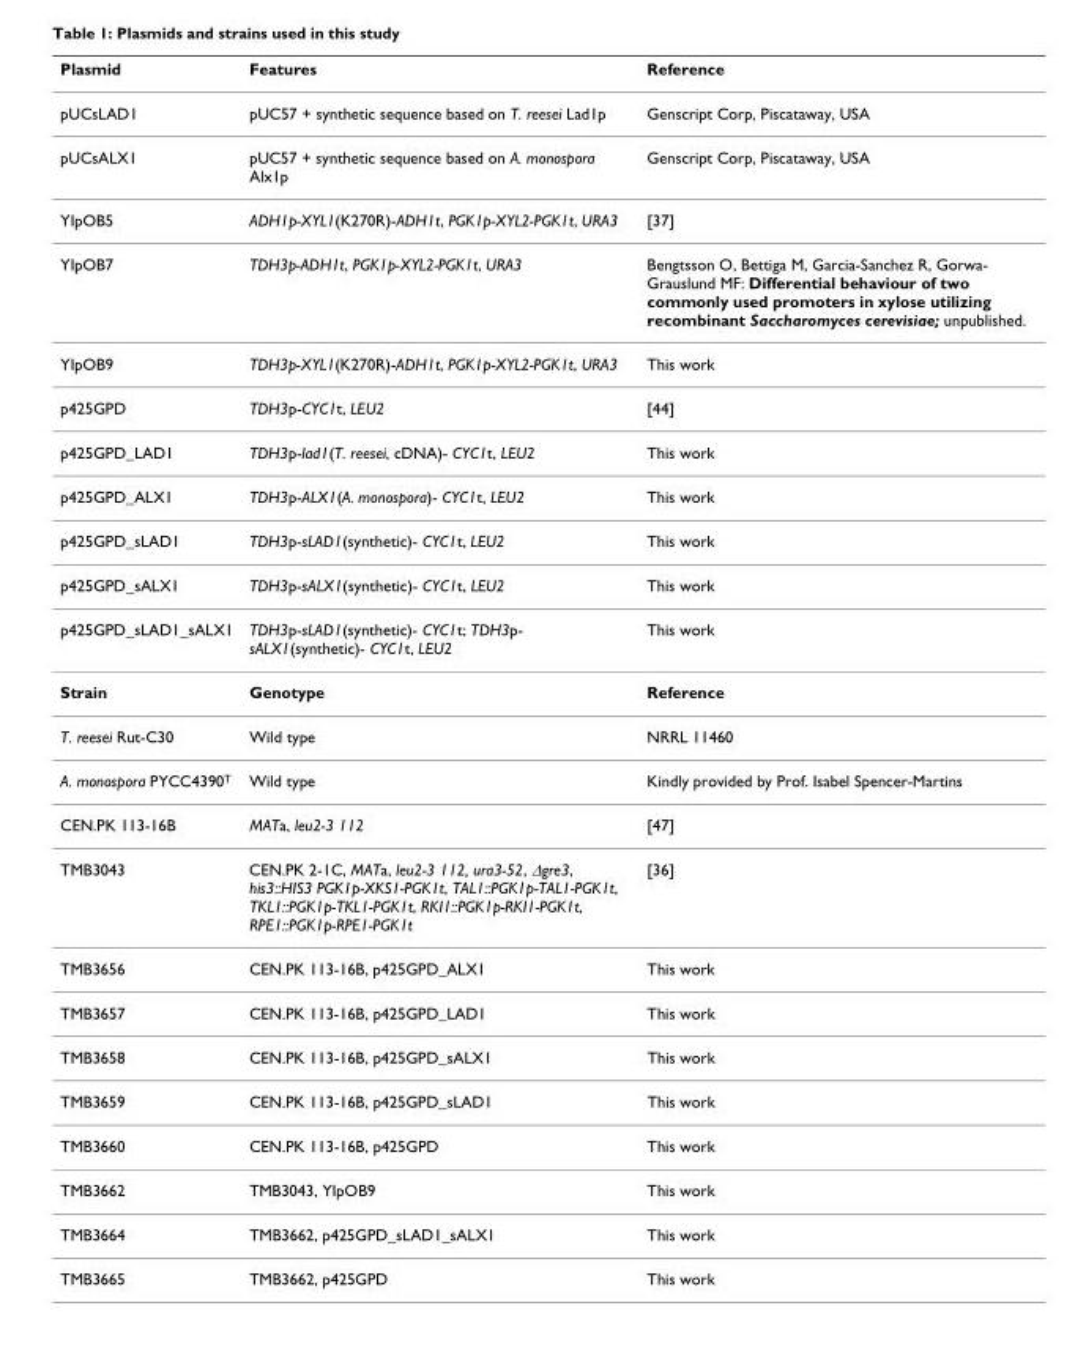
<table><thead><tr><td>Plasmid</td><td>Features</td><td>Reference</td></tr></thead><tbody><tr><td>pUCsLAD1</td><td>pUC57 + synthetic sequence based on T. reesei Lad1p</td><td>Genscript Corp, Piscataway, USA</td></tr><tr><td>pUCsALX1</td><td>pUC57 + synthetic sequence based on A. monospora Alx1p</td><td>Genscript Corp, Piscataway, USA</td></tr><tr><td>YIpOB5</td><td>ADH1p-XYL1(K270R)-ADH1t, PGK1p-XYL2-PGK1t, URA3</td><td>[37]</td></tr><tr><td>YIpOB7</td><td>TDH3p-ADH1t, PGK1p-XYL2-PGK1t, URA3</td><td>Bengtsson O, Bettiga M, Garcia-Sanchez R, Gorwa- Grauslund MF: Differential behaviour of two commonly used promoters in xylose utilizing recombinant Saccharomyces cerevisiae; unpublished.</td></tr><tr><td>YIpOB9</td><td>TDH3p-XYL1(K270R)-ADH1t, PGK1p-XYL2-PGK1t, URA3</td><td>This work</td></tr><tr><td>p425GPD</td><td>TDH3p-CYC1t, LEU2</td><td>[44]</td></tr><tr><td>p425GPD_LAD1</td><td>TDH3p-lad1(T. reesei, cDNA)- CYC1t, LEU2</td><td>This work</td></tr><tr><td>p425GPD_ALX1</td><td>TDH3p-ALX1(A. monospora)- CYC1t, LEU2</td><td>This work</td></tr><tr><td>p425GPD_sLAD1</td><td>TDH3p-sLAD1(synthetic)- CYC1t, LEU2</td><td>This work</td></tr><tr><td>p425GPD_sALX1</td><td>TDH3p-sALX1(synthetic)- CYC1t, LEU2</td><td>This work</td></tr><tr><td>p425GPD_sLAD1_sALX1</td><td>TDH3p-sLAD1(synthetic)- CYC1t; TDH3p- sALX1(synthetic)- CYC1t, LEU2</td><td>This work</td></tr><tr><td>Strain</td><td>Genotype</td><td>Reference</td></tr><tr><td>T. reesei Rut-C30</td><td>Wild type</td><td>NRRL 11460</td></tr><tr><td>A. monospora PYCC4390<sup>T</sup></td><td>Wild type</td><td>Kindly provided by Prof. Isabel Spencer-Martins</td></tr><tr><td>CEN.PK 113-16B</td><td>MATa, leu2-3 112</td><td>[47]</td></tr><tr><td>TMB3043</td><td>CEN.PK 2-1C, MATa, leu2-3 112, ura3-52, Δgre3, his3::HIS3 PGK1p-XKS1-PGK1t, TAL1::PGK1p-TAL1-PGK1t, TKL1::PGK1p-TKL1-PGK1t, RKI1::PGK1p-RKI1-PGK1t, RPE1::PGK1p-RPE1-PGK1t</td><td>[36]</td></tr><tr><td>TMB3656</td><td>CEN.PK 113-16B, p425GPD_ALX1</td><td>This work</td></tr><tr><td>TMB3657</td><td>CEN.PK 113-16B, p425GPD_LAD1</td><td>This work</td></tr><tr><td>TMB3658</td><td>CEN.PK 113-16B, p425GPD_sALX1</td><td>This work</td></tr><tr><td>TMB3659</td><td>CEN.PK 113-16B, p425GPD_sLAD1</td><td>This work</td></tr><tr><td>TMB3660</td><td>CEN.PK 113-16B, p425GPD</td><td>This work</td></tr><tr><td>TMB3662</td><td>TMB3043, YIpOB9</td><td>This work</td></tr><tr><td>TMB3664</td><td>TMB3662, p425GPD_sLAD1_sALX1</td><td>This work</td></tr><tr><td>TMB3665</td><td>TMB3662, p425GPD</td><td>This work</td></tr></tbody></table>